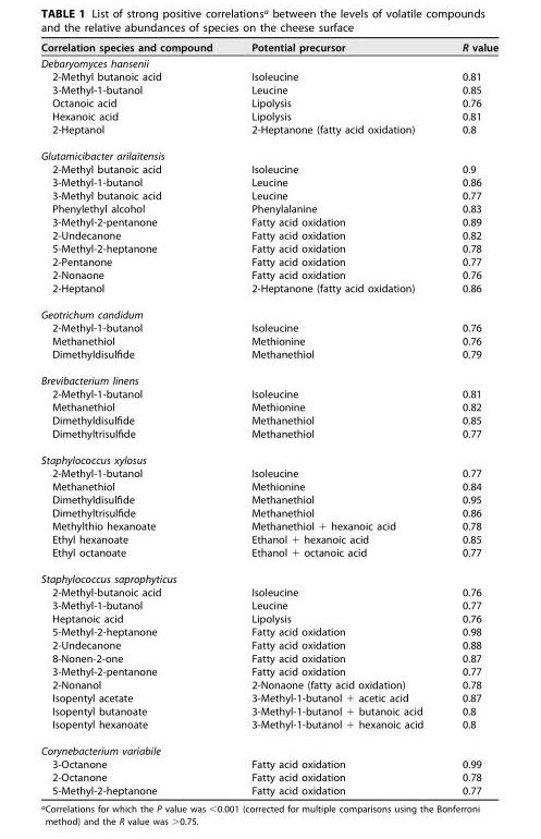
<table><thead><tr><td>Correlation species and compound</td><td>Potential precursor</td><td>R value</td></tr></thead><tbody><tr><td colspan="3">Debaryomyces hansenii</td></tr><tr><td>2-Methyl butanoic acid</td><td>Isoleucine</td><td>0.81</td></tr><tr><td>3-Methyl-1-butanol</td><td>Leucine</td><td>0.85</td></tr><tr><td>Octanoic acid</td><td>Lipolysis</td><td>0.76</td></tr><tr><td>Hexanoic acid</td><td>Lipolysis</td><td>0.81</td></tr><tr><td>2-Heptanol</td><td>2-Heptanone (fatty acid oxidation)</td><td>0.8</td></tr><tr><td colspan="3">Glutamicibacter arilaitensis</td></tr><tr><td>2-Methyl butanoic acid</td><td>Isoleucine</td><td>0.9</td></tr><tr><td>3-Methyl-1-butanol</td><td>Leucine</td><td>0.86</td></tr><tr><td>3-Methyl butanoic acid</td><td>Leucine</td><td>0.77</td></tr><tr><td>Phenylethyl alcohol</td><td>Phenylalanine</td><td>0.83</td></tr><tr><td>3-Methyl-2-pentanone</td><td>Fatty acid oxidation</td><td>0.89</td></tr><tr><td>2-Undecanone</td><td>Fatty acid oxidation</td><td>0.82</td></tr><tr><td>5-Methyl-2-heptanone</td><td>Fatty acid oxidation</td><td>0.78</td></tr><tr><td>2-Pentanone</td><td>Fatty acid oxidation</td><td>0.77</td></tr><tr><td>2-Nonaone</td><td>Fatty acid oxidation</td><td>0.76</td></tr><tr><td>2-Heptanol</td><td>2-Heptanone (fatty acid oxidation)</td><td>0.86</td></tr><tr><td colspan="3">Geotrichum candidum</td></tr><tr><td>2-Methyl-1-butanol</td><td>Isoleucine</td><td>0.76</td></tr><tr><td>Methanethiol</td><td>Methionine</td><td>0.76</td></tr><tr><td>Dimethyldisulfide</td><td>Methanethiol</td><td>0.79</td></tr><tr><td colspan="3">Brevibacterium linens</td></tr><tr><td>2-Methyl-1-butanol</td><td>Isoleucine</td><td>0.81</td></tr><tr><td>Methanethiol</td><td>Methionine</td><td>0.82</td></tr><tr><td>Dimethyldisulfide</td><td>Methanethiol</td><td>0.85</td></tr><tr><td>Dimethyltrisulfide</td><td>Methanethiol</td><td>0.77</td></tr><tr><td colspan="3">Staphylococcus xylosus</td></tr><tr><td>2-Methyl-1-butanol</td><td>Isoleucine</td><td>0.77</td></tr><tr><td>Methanethiol</td><td>Methionine</td><td>0.84</td></tr><tr><td>Dimethyldisulfide</td><td>Methanethiol</td><td>0.95</td></tr><tr><td>Dimethyltrisulfide</td><td>Methanethiol</td><td>0.86</td></tr><tr><td>Methylthio hexanoate</td><td>Methanethiol + hexanoic acid</td><td>0.78</td></tr><tr><td>Ethyl hexanoate</td><td>Ethanol + hexanoic acid</td><td>0.85</td></tr><tr><td>Ethyl octanoate</td><td>Ethanol + octanoic acid</td><td>0.77</td></tr><tr><td colspan="3">Staphylococcus saprophyticus</td></tr><tr><td>2-Methyl-butanoic acid</td><td>Isoleucine</td><td>0.76</td></tr><tr><td>3-Methyl-1-butanol</td><td>Leucine</td><td>0.77</td></tr><tr><td>Heptanoic acid</td><td>Lipolysis</td><td>0.76</td></tr><tr><td>5-Methyl-2-heptanone</td><td>Fatty acid oxidation</td><td>0.98</td></tr><tr><td>2-Undecanone</td><td>Fatty acid oxidation</td><td>0.88</td></tr><tr><td>8-Nonen-2-one</td><td>Fatty acid oxidation</td><td>0.87</td></tr><tr><td>3-Methyl-2-pentanone</td><td>Fatty acid oxidation</td><td>0.77</td></tr><tr><td>2-Nonanol</td><td>2-Nonaone (fatty acid oxidation)</td><td>0.78</td></tr><tr><td>Isopentyl acetate</td><td>3-Methyl-1-butanol + acetic acid</td><td>0.87</td></tr><tr><td>Isopentyl butanoate</td><td>3-Methyl-1-butanol + butanoic acid</td><td>0.8</td></tr><tr><td>Isopentyl hexanoate</td><td>3-Methyl-1-butanol + hexanoic acid</td><td>0.8</td></tr><tr><td colspan="3">Corynebacterium variabile</td></tr><tr><td>3-Octanone</td><td>Fatty acid oxidation</td><td>0.99</td></tr><tr><td>2-Octanone</td><td>Fatty acid oxidation</td><td>0.78</td></tr><tr><td>5-Methyl-2-heptanone</td><td>Fatty acid oxidation</td><td>0.77</td></tr></tbody></table>